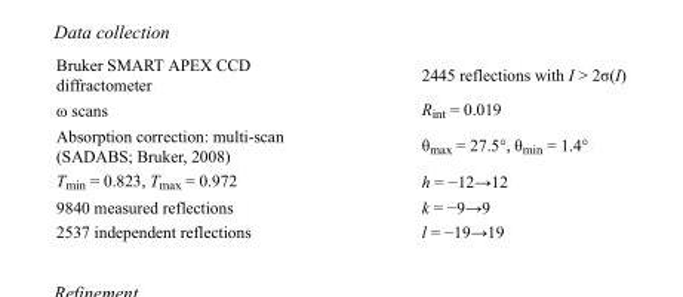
<table><tbody><tr><td>Bruker SMART APEX CCD diffractometer</td><td>2445 reflections with I &gt; 2σ(I)</td></tr><tr><td>ω scans</td><td>R<sub>int</sub> = 0.019</td></tr><tr><td>Absorption correction: multi-scan (SADABS; Bruker, 2008)</td><td>θ<sub>max</sub> = 27.5°, θ<sub>min</sub> = 1.4°</td></tr><tr><td>T<sub>min</sub> = 0.823, T<sub>max</sub> = 0.972</td><td>h = −12→12</td></tr><tr><td>9840 measured reflections</td><td>k = −9→9</td></tr><tr><td>2537 independent reflections</td><td>l = −19→19</td></tr></tbody></table>